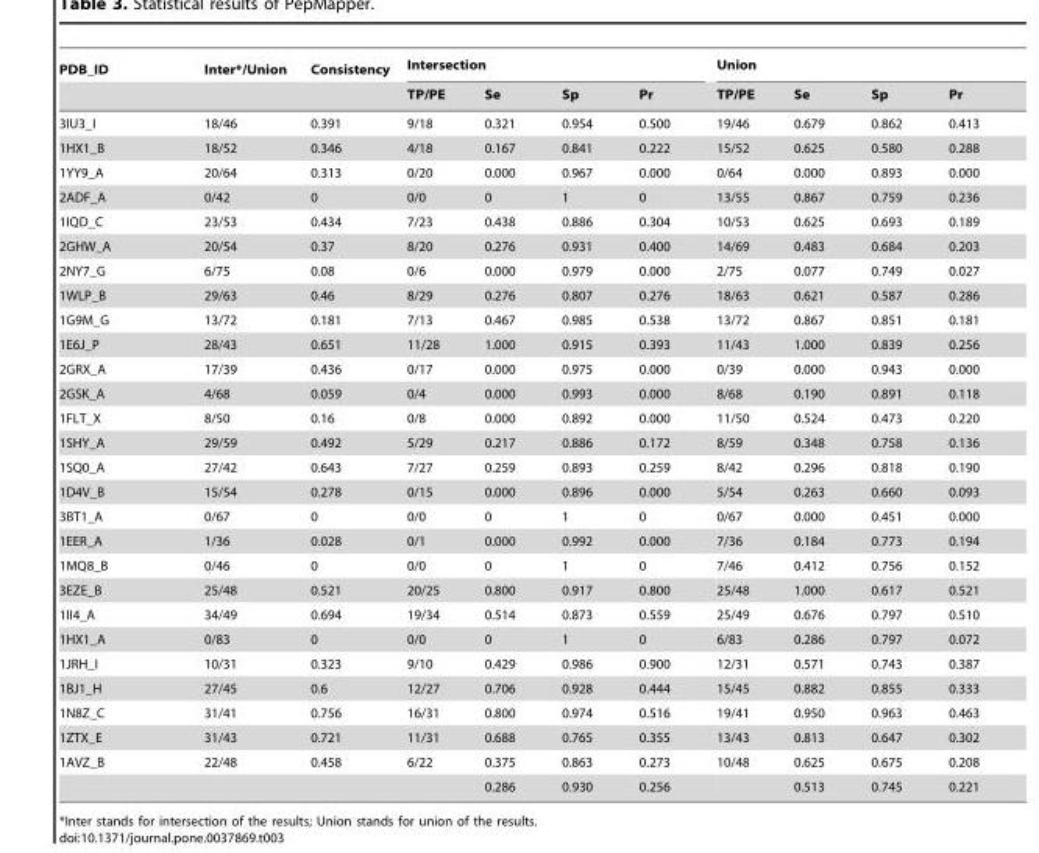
<table><thead><tr><td rowspan="2">PDB_ID</td><td rowspan="2">Inter*/Union</td><td rowspan="2">Consistency</td><td colspan="4">Intersection</td><td colspan="4">Union</td></tr><tr><td>TP/PE</td><td>Se</td><td>Sp</td><td>Pr</td><td>TP/PE</td><td>Se</td><td>Sp</td><td>Pr</td></tr></thead><tbody><tr><td>3IU3_I</td><td>18/46</td><td>0.391</td><td>9/18</td><td>0.321</td><td>0.954</td><td>0.500</td><td>19/46</td><td>0.679</td><td>0.862</td><td>0.413</td></tr><tr><td>1HX1_B</td><td>18/52</td><td>0.346</td><td>4/18</td><td>0.167</td><td>0.841</td><td>0.222</td><td>15/52</td><td>0.625</td><td>0.580</td><td>0.288</td></tr><tr><td>1YY9_A</td><td>20/64</td><td>0.313</td><td>0/20</td><td>0.000</td><td>0.967</td><td>0.000</td><td>0/64</td><td>0.000</td><td>0.893</td><td>0.000</td></tr><tr><td>2ADF_A</td><td>0/42</td><td>0</td><td>0/0</td><td>0</td><td>1</td><td>0</td><td>13/55</td><td>0.867</td><td>0.759</td><td>0.236</td></tr><tr><td>1IQD_C</td><td>23/53</td><td>0.434</td><td>7/23</td><td>0.438</td><td>0.886</td><td>0.304</td><td>10/53</td><td>0.625</td><td>0.693</td><td>0.189</td></tr><tr><td>2GHW_A</td><td>20/54</td><td>0.37</td><td>8/20</td><td>0.276</td><td>0.931</td><td>0.400</td><td>14/69</td><td>0.483</td><td>0.684</td><td>0.203</td></tr><tr><td>2NY7_G</td><td>6/75</td><td>0.08</td><td>0/6</td><td>0.000</td><td>0.979</td><td>0.000</td><td>2/75</td><td>0.077</td><td>0.749</td><td>0.027</td></tr><tr><td>1WLP_B</td><td>29/63</td><td>0.46</td><td>8/29</td><td>0.276</td><td>0.807</td><td>0.276</td><td>18/63</td><td>0.621</td><td>0.587</td><td>0.286</td></tr><tr><td>1G9M_G</td><td>13/72</td><td>0.181</td><td>7/13</td><td>0.467</td><td>0.985</td><td>0.538</td><td>13/72</td><td>0.867</td><td>0.851</td><td>0.181</td></tr><tr><td>1E6J_P</td><td>28/43</td><td>0.651</td><td>11/28</td><td>1.000</td><td>0.915</td><td>0.393</td><td>11/43</td><td>1.000</td><td>0.839</td><td>0.256</td></tr><tr><td>2GRX_A</td><td>17/39</td><td>0.436</td><td>0/17</td><td>0.000</td><td>0.975</td><td>0.000</td><td>0/39</td><td>0.000</td><td>0.943</td><td>0.000</td></tr><tr><td>2GSK_A</td><td>4/68</td><td>0.059</td><td>0/4</td><td>0.000</td><td>0.993</td><td>0.000</td><td>8/68</td><td>0.190</td><td>0.891</td><td>0.118</td></tr><tr><td>1FLT_X</td><td>8/50</td><td>0.16</td><td>0/8</td><td>0.000</td><td>0.892</td><td>0.000</td><td>11/50</td><td>0.524</td><td>0.473</td><td>0.220</td></tr><tr><td>1SHY_A</td><td>29/59</td><td>0.492</td><td>5/29</td><td>0.217</td><td>0.886</td><td>0.172</td><td>8/59</td><td>0.348</td><td>0.758</td><td>0.136</td></tr><tr><td>1SQ0_A</td><td>27/42</td><td>0.643</td><td>7/27</td><td>0.259</td><td>0.893</td><td>0.259</td><td>8/42</td><td>0.296</td><td>0.818</td><td>0.190</td></tr><tr><td>1D4V_B</td><td>15/54</td><td>0.278</td><td>0/15</td><td>0.000</td><td>0.896</td><td>0.000</td><td>5/54</td><td>0.263</td><td>0.660</td><td>0.093</td></tr><tr><td>3BT1_A</td><td>0/67</td><td>0</td><td>0/0</td><td>0</td><td>1</td><td>0</td><td>0/67</td><td>0.000</td><td>0.451</td><td>0.000</td></tr><tr><td>1EER_A</td><td>1/36</td><td>0.028</td><td>0/1</td><td>0.000</td><td>0.992</td><td>0.000</td><td>7/36</td><td>0.184</td><td>0.773</td><td>0.194</td></tr><tr><td>1MQ8_B</td><td>0/46</td><td>0</td><td>0/0</td><td>0</td><td>1</td><td>0</td><td>7/46</td><td>0.412</td><td>0.756</td><td>0.152</td></tr><tr><td>3EZE_B</td><td>25/48</td><td>0.521</td><td>20/25</td><td>0.800</td><td>0.917</td><td>0.800</td><td>25/48</td><td>1.000</td><td>0.617</td><td>0.521</td></tr><tr><td>1II4_A</td><td>34/49</td><td>0.694</td><td>19/34</td><td>0.514</td><td>0.873</td><td>0.559</td><td>25/49</td><td>0.676</td><td>0.797</td><td>0.510</td></tr><tr><td>1HX1_A</td><td>0/83</td><td>0</td><td>0/0</td><td>0</td><td>1</td><td>0</td><td>6/83</td><td>0.286</td><td>0.797</td><td>0.072</td></tr><tr><td>1JRH_I</td><td>10/31</td><td>0.323</td><td>9/10</td><td>0.429</td><td>0.986</td><td>0.900</td><td>12/31</td><td>0.571</td><td>0.743</td><td>0.387</td></tr><tr><td>1BJ1_H</td><td>27/45</td><td>0.6</td><td>12/27</td><td>0.706</td><td>0.928</td><td>0.444</td><td>15/45</td><td>0.882</td><td>0.855</td><td>0.333</td></tr><tr><td>1N8Z_C</td><td>31/41</td><td>0.756</td><td>16/31</td><td>0.800</td><td>0.974</td><td>0.516</td><td>19/41</td><td>0.950</td><td>0.963</td><td>0.463</td></tr><tr><td>1ZTX_E</td><td>31/43</td><td>0.721</td><td>11/31</td><td>0.688</td><td>0.765</td><td>0.355</td><td>13/43</td><td>0.813</td><td>0.647</td><td>0.302</td></tr><tr><td rowspan="2">1AVZ_B</td><td>22/48</td><td>0.458</td><td>6/22</td><td>0.375</td><td>0.863</td><td>0.273</td><td>10/48</td><td>0.625</td><td>0.675</td><td>0.208</td></tr><tr><td></td><td></td><td></td><td>0.286</td><td>0.930</td><td>0.256</td><td></td><td>0.513</td><td>0.745</td><td>0.221</td></tr></tbody></table>